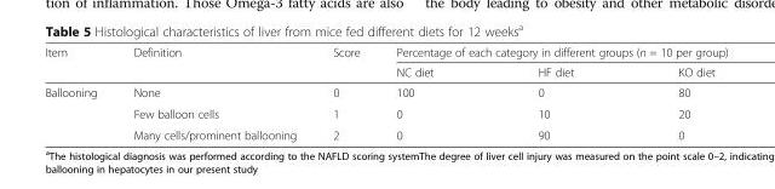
<table><thead><tr><td rowspan="2">Item</td><td rowspan="2">Definition</td><td rowspan="2">Score</td><td colspan="3">Percentage of each category in different groups (n = 10 per group)</td></tr><tr><td>NC diet</td><td>HF diet</td><td>KO diet</td></tr></thead><tbody><tr><td rowspan="3">Ballooning</td><td>None</td><td>0</td><td>100</td><td>0</td><td>80</td></tr><tr><td>Few balloon cells</td><td>1</td><td>0</td><td>10</td><td>20</td></tr><tr><td>Many cells/prominent ballooning</td><td>2</td><td>0</td><td>90</td><td>0</td></tr></tbody></table>